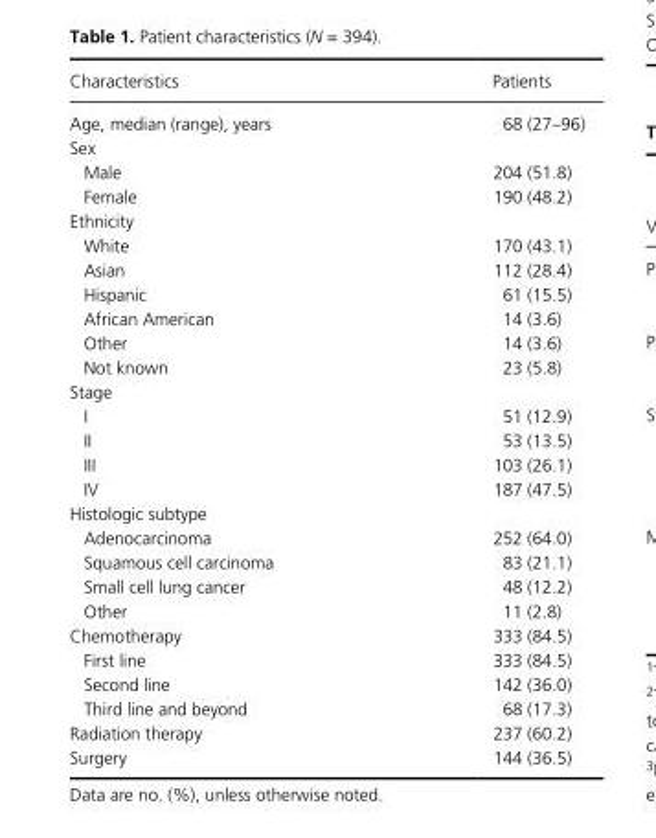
<table><thead><tr><td>Characteristics</td><td>Patients</td></tr></thead><tbody><tr><td>Age, median (range), years</td><td>68 (27–96)</td></tr><tr><td colspan="2">Sex</td></tr><tr><td>Male</td><td>204 (51.8)</td></tr><tr><td>Female</td><td>190 (48.2)</td></tr><tr><td colspan="2">Ethnicity</td></tr><tr><td>White</td><td>170 (43.1)</td></tr><tr><td>Asian</td><td>112 (28.4)</td></tr><tr><td>Hispanic</td><td>61 (15.5)</td></tr><tr><td>African American</td><td>14 (3.6)</td></tr><tr><td>Other</td><td>14 (3.6)</td></tr><tr><td>Not known</td><td>23 (5.8)</td></tr><tr><td colspan="2">Stage</td></tr><tr><td>I</td><td>51 (12.9)</td></tr><tr><td>II</td><td>53 (13.5)</td></tr><tr><td>III</td><td>103 (26.1)</td></tr><tr><td>IV</td><td>187 (47.5)</td></tr><tr><td colspan="2">Histologic subtype</td></tr><tr><td>Adenocarcinoma</td><td>252 (64.0)</td></tr><tr><td>Squamous cell carcinoma</td><td>83 (21.1)</td></tr><tr><td>Small cell lung cancer</td><td>48 (12.2)</td></tr><tr><td>Other</td><td>11 (2.8)</td></tr><tr><td>Chemotherapy</td><td>333 (84.5)</td></tr><tr><td>First line</td><td>333 (84.5)</td></tr><tr><td>Second line</td><td>142 (36.0)</td></tr><tr><td>Third line and beyond</td><td>68 (17.3)</td></tr><tr><td>Radiation therapy</td><td>237 (60.2)</td></tr><tr><td>Surgery</td><td>144 (36.5)</td></tr></tbody></table>